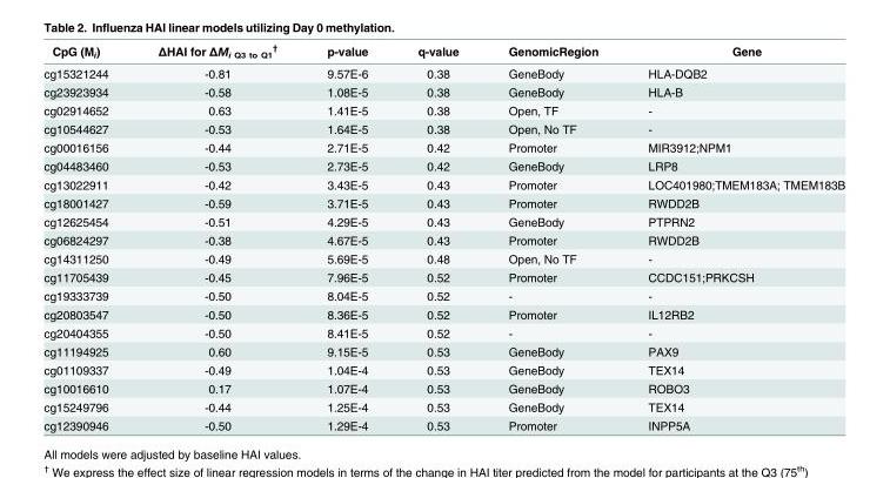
<table><thead><tr><td>CpG (M<sub>i</sub>)</td><td>ΔHAI for ΔM<sub>i Q3 to Q1</sub> <sup>†</sup></td><td>p-value</td><td>q-value</td><td>GenomicRegion</td><td>Gene</td></tr></thead><tbody><tr><td>cg15321244</td><td>-0.81</td><td>9.57E-6</td><td>0.38</td><td>GeneBody</td><td>HLA-DQB2</td></tr><tr><td>cg23923934</td><td>-0.58</td><td>1.08E-5</td><td>0.38</td><td>GeneBody</td><td>HLA-B</td></tr><tr><td>cg02914652</td><td>0.63</td><td>1.41E-5</td><td>0.38</td><td>Open, TF</td><td>-</td></tr><tr><td>cg10544627</td><td>-0.53</td><td>1.64E-5</td><td>0.38</td><td>Open, No TF</td><td>-</td></tr><tr><td>cg00016156</td><td>-0.44</td><td>2.71E-5</td><td>0.42</td><td>Promoter</td><td>MIR3912;NPM1</td></tr><tr><td>cg04483460</td><td>-0.53</td><td>2.73E-5</td><td>0.42</td><td>GeneBody</td><td>LRP8</td></tr><tr><td>cg13022911</td><td>-0.42</td><td>3.43E-5</td><td>0.43</td><td>Promoter</td><td>LOC401980;TMEM183A; TMEM183B</td></tr><tr><td>cg18001427</td><td>-0.59</td><td>3.71E-5</td><td>0.43</td><td>Promoter</td><td>RWDD2B</td></tr><tr><td>cg12625454</td><td>-0.51</td><td>4.29E-5</td><td>0.43</td><td>GeneBody</td><td>PTPRN2</td></tr><tr><td>cg06824297</td><td>-0.38</td><td>4.67E-5</td><td>0.43</td><td>Promoter</td><td>RWDD2B</td></tr><tr><td>cg14311250</td><td>-0.49</td><td>5.69E-5</td><td>0.48</td><td>Open, No TF</td><td>-</td></tr><tr><td>cg11705439</td><td>-0.45</td><td>7.96E-5</td><td>0.52</td><td>Promoter</td><td>CCDC151;PRKCSH</td></tr><tr><td>cg19333739</td><td>-0.50</td><td>8.04E-5</td><td>0.52</td><td>-</td><td>-</td></tr><tr><td>cg20803547</td><td>-0.50</td><td>8.36E-5</td><td>0.52</td><td>Promoter</td><td>IL12RB2</td></tr><tr><td>cg20404355</td><td>-0.50</td><td>8.41E-5</td><td>0.52</td><td>-</td><td>-</td></tr><tr><td>cg11194925</td><td>0.60</td><td>9.15E-5</td><td>0.53</td><td>GeneBody</td><td>PAX9</td></tr><tr><td>cg01109337</td><td>-0.49</td><td>1.04E-4</td><td>0.53</td><td>GeneBody</td><td>TEX14</td></tr><tr><td>cg10016610</td><td>0.17</td><td>1.07E-4</td><td>0.53</td><td>GeneBody</td><td>ROBO3</td></tr><tr><td>cg15249796</td><td>-0.44</td><td>1.25E-4</td><td>0.53</td><td>GeneBody</td><td>TEX14</td></tr><tr><td>cg12390946</td><td>-0.50</td><td>1.29E-4</td><td>0.53</td><td>Promoter</td><td>INPP5A</td></tr></tbody></table>